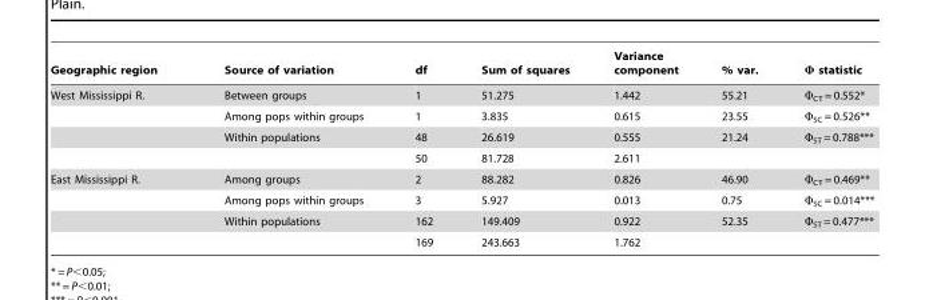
<table><thead><tr><td>Geographic region</td><td>Source of variation</td><td>df</td><td>Sum of squares</td><td>Variance component</td><td>% var.</td><td>Φ statistic</td></tr></thead><tbody><tr><td rowspan="4">West Mississippi R.</td><td>Between groups</td><td>1</td><td>51.275</td><td>1.442</td><td>55.21</td><td>Φ<sub>CT</sub> = 0.552*</td></tr><tr><td>Among pops within groups</td><td>1</td><td>3.835</td><td>0.615</td><td>23.55</td><td>Φ<sub>SC</sub> = 0.526**</td></tr><tr><td>Within populations</td><td>48</td><td>26.619</td><td>0.555</td><td>21.24</td><td>Φ<sub>ST</sub> = 0.788***</td></tr><tr><td></td><td>50</td><td>81.728</td><td>2.611</td><td></td><td></td></tr><tr><td rowspan="4">East Mississippi R.</td><td>Among groups</td><td>2</td><td>88.282</td><td>0.826</td><td>46.90</td><td>Φ<sub>CT</sub> = 0.469**</td></tr><tr><td>Among pops within groups</td><td>3</td><td>5.927</td><td>0.013</td><td>0.75</td><td>Φ<sub>SC</sub> = 0.014***</td></tr><tr><td>Within populations</td><td>162</td><td>149.409</td><td>0.922</td><td>52.35</td><td>Φ<sub>ST</sub> = 0.477***</td></tr><tr><td></td><td>169</td><td>243.663</td><td>1.762</td><td></td><td></td></tr></tbody></table>